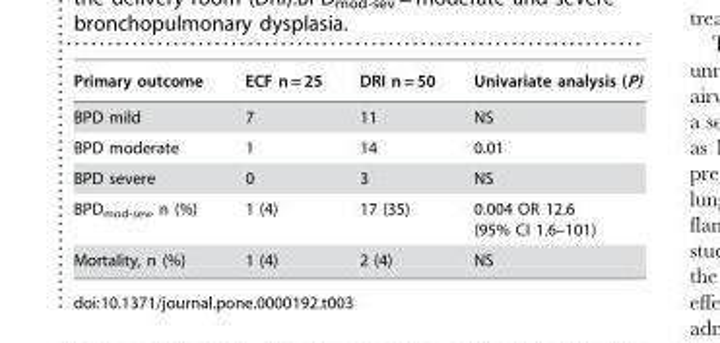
<table><thead><tr><td>Primary outcome</td><td>ECF n = 25</td><td>DRI n = 50</td><td>Univariate analysis (P)</td></tr></thead><tbody><tr><td>BPD mild</td><td>7</td><td>11</td><td>NS</td></tr><tr><td>BPD moderate</td><td>1</td><td>14</td><td>0.01</td></tr><tr><td>BPD severe</td><td>0</td><td>3</td><td>NS</td></tr><tr><td>BPD<sub>mod-sev</sub>, n (%)</td><td>1 (4)</td><td>17 (35)</td><td>0.004 OR 12.6 (95% CI 1.6–101)</td></tr><tr><td>Mortality, n (%)</td><td>1 (4)</td><td>2 (4)</td><td>NS</td></tr></tbody></table>